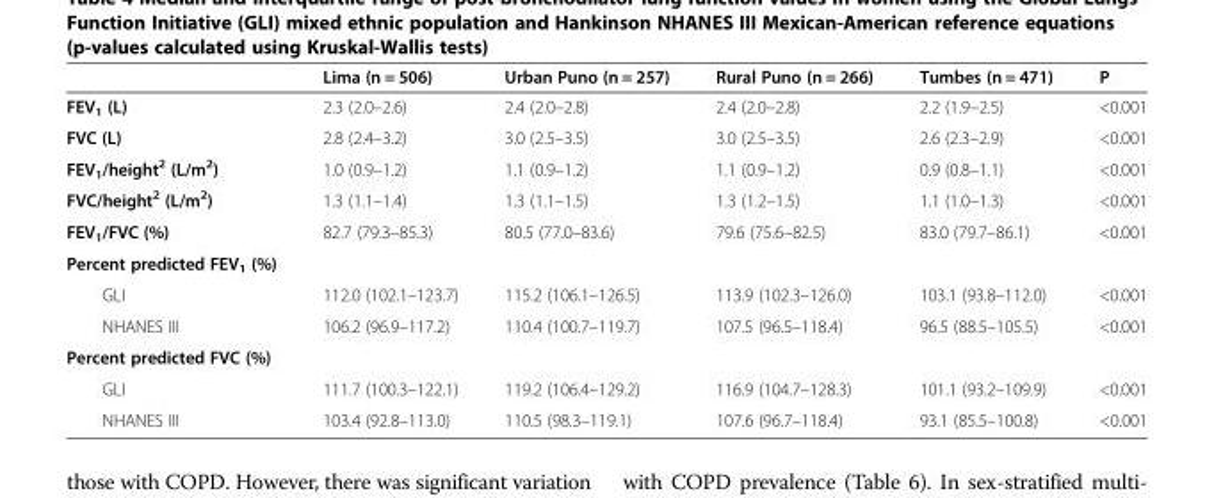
<table><thead><tr><td></td><td>Lima (n = 506)</td><td>Urban Puno (n = 257)</td><td>Rural Puno (n = 266)</td><td>Tumbes (n = 471)</td><td>P</td></tr></thead><tbody><tr><td>FEV<sub>1</sub> (L)</td><td>2.3 (2.0–2.6)</td><td>2.4 (2.0–2.8)</td><td>2.4 (2.0–2.8)</td><td>2.2 (1.9–2.5)</td><td>&lt;0.001</td></tr><tr><td>FVC (L)</td><td>2.8 (2.4–3.2)</td><td>3.0 (2.5–3.5)</td><td>3.0 (2.5–3.5)</td><td>2.6 (2.3–2.9)</td><td>&lt;0.001</td></tr><tr><td>FEV<sub>1</sub>/height<sup>2</sup> (L/m<sup>2</sup>)</td><td>1.0 (0.9–1.2)</td><td>1.1 (0.9–1.2)</td><td>1.1 (0.9–1.2)</td><td>0.9 (0.8–1.1)</td><td>&lt;0.001</td></tr><tr><td>FVC/height<sup>2</sup> (L/m<sup>2</sup>)</td><td>1.3 (1.1–1.4)</td><td>1.3 (1.1–1.5)</td><td>1.3 (1.2–1.5)</td><td>1.1 (1.0–1.3)</td><td>&lt;0.001</td></tr><tr><td>FEV<sub>1</sub>/FVC (%)</td><td>82.7 (79.3–85.3)</td><td>80.5 (77.0–83.6)</td><td>79.6 (75.6–82.5)</td><td>83.0 (79.7–86.1)</td><td>&lt;0.001</td></tr><tr><td colspan="6">Percent predicted FEV<sub>1</sub> (%)</td></tr><tr><td>GLI</td><td>112.0 (102.1–123.7)</td><td>115.2 (106.1–126.5)</td><td>113.9 (102.3–126.0)</td><td>103.1 (93.8–112.0)</td><td>&lt;0.001</td></tr><tr><td>NHANES III</td><td>106.2 (96.9–117.2)</td><td>110.4 (100.7–119.7)</td><td>107.5 (96.5–118.4)</td><td>96.5 (88.5–105.5)</td><td>&lt;0.001</td></tr><tr><td colspan="6">Percent predicted FVC (%)</td></tr><tr><td>GLI</td><td>111.7 (100.3–122.1)</td><td>119.2 (106.4–129.2)</td><td>116.9 (104.7–128.3)</td><td>101.1 (93.2–109.9)</td><td>&lt;0.001</td></tr><tr><td>NHANES III</td><td>103.4 (92.8–113.0)</td><td>110.5 (98.3–119.1)</td><td>107.6 (96.7–118.4)</td><td>93.1 (85.5–100.8)</td><td>&lt;0.001</td></tr></tbody></table>